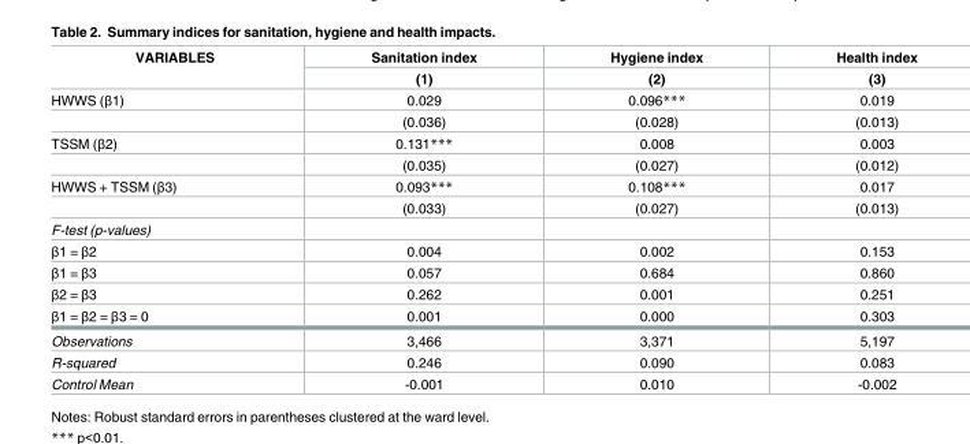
<table><thead><tr><td rowspan="2">VARIABLES</td><td rowspan="2">Sanitation index (1)</td><td rowspan="2">Hygiene index (2)</td><td rowspan="2">Health index (3)</td></tr><tr></tr></thead><tbody><tr><td rowspan="2">HWWS (β1)</td><td>0.029</td><td>0.096***</td><td>0.019</td></tr><tr><td>(0.036)</td><td>(0.028)</td><td>(0.013)</td></tr><tr><td rowspan="2">TSSM (β2)</td><td>0.131***</td><td>0.008</td><td>0.003</td></tr><tr><td>(0.035)</td><td>(0.027)</td><td>(0.012)</td></tr><tr><td rowspan="2">HWWS + TSSM (β3)</td><td>0.093***</td><td>0.108***</td><td>0.017</td></tr><tr><td>(0.033)</td><td>(0.027)</td><td>(0.013)</td></tr><tr><td colspan="4">F-test (p-values)</td></tr><tr><td>β1 = β2</td><td>0.004</td><td>0.002</td><td>0.153</td></tr><tr><td>β1 = β3</td><td>0.057</td><td>0.684</td><td>0.860</td></tr><tr><td>β2 = β3</td><td>0.262</td><td>0.001</td><td>0.251</td></tr><tr><td>β1 = β2 = β3 = 0</td><td>0.001</td><td>0.000</td><td>0.303</td></tr><tr><td>Observations</td><td>3,466</td><td>3,371</td><td>5,197</td></tr><tr><td>R-squared</td><td>0.246</td><td>0.090</td><td>0.083</td></tr><tr><td>Control Mean</td><td>-0.001</td><td>0.010</td><td>-0.002</td></tr></tbody></table>